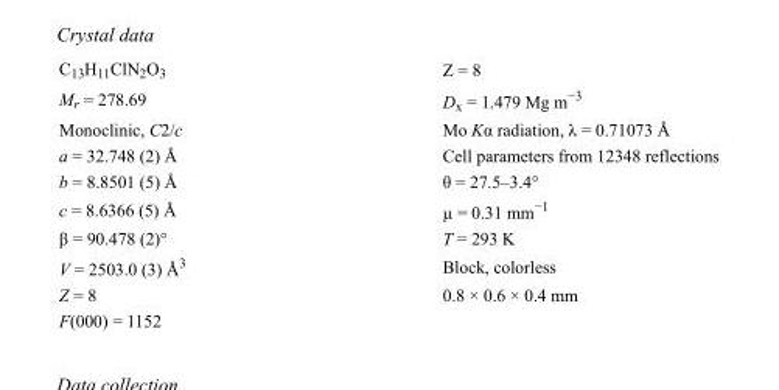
<table><tbody><tr><td>C<sub>13</sub>H<sub>11</sub>ClN<sub>2</sub>O<sub>3</sub></td><td>Z = 8</td></tr><tr><td>M<sub>r</sub> = 278.69</td><td>D<sub>x</sub> = 1.479 Mg m<sup>−3</sup></td></tr><tr><td>Monoclinic, C2/c</td><td>Mo Kα radiation, λ = 0.71073 Å</td></tr><tr><td>a = 32.748 (2) Å</td><td>Cell parameters from 12348 reflections</td></tr><tr><td>b = 8.8501 (5) Å</td><td>θ = 27.5–3.4°</td></tr><tr><td>c = 8.6366 (5) Å</td><td>µ = 0.31 mm<sup>−1</sup></td></tr><tr><td>β = 90.478 (2)°</td><td>T = 293 K</td></tr><tr><td>V = 2503.0 (3) Å<sup>3</sup></td><td>Block, colorless</td></tr><tr><td>Z = 8</td><td>0.8 × 0.6 × 0.4 mm</td></tr><tr><td>F(000) = 1152</td><td></td></tr></tbody></table>